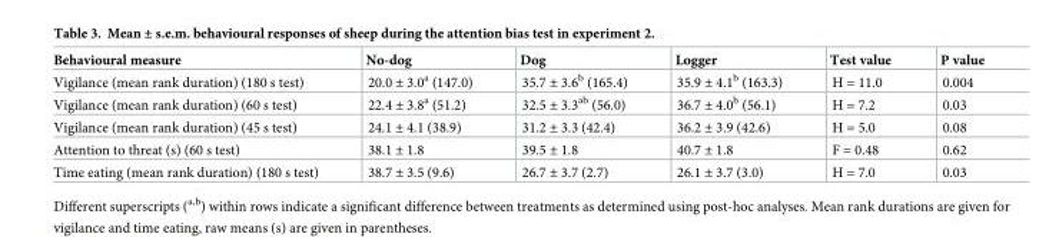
<table><thead><tr><td>Behavioural measure</td><td>No-dog</td><td>Dog</td><td>Logger</td><td>Test value</td><td>P value</td></tr></thead><tbody><tr><td>Vigilance (mean rank duration) (180 s test)</td><td>20.0 ± 3.0<sup>a</sup> (147.0)</td><td>35.7 ± 3.6<sup>b</sup> (165.4)</td><td>35.9 ± 4.1<sup>b</sup> (163.3)</td><td>H = 11.0</td><td>0.004</td></tr><tr><td>Vigilance (mean rank duration) (60 s test)</td><td>22.4 ± 3.8<sup>a</sup> (51.2)</td><td>32.5 ± 3.3<sup>ab</sup> (56.0)</td><td>36.7 ± 4.0<sup>b</sup> (56.1)</td><td>H = 7.2</td><td>0.03</td></tr><tr><td>Vigilance (mean rank duration) (45 s test)</td><td>24.1 ± 4.1 (38.9)</td><td>31.2 ± 3.3 (42.4)</td><td>36.2 ± 3.9 (42.6)</td><td>H = 5.0</td><td>0.08</td></tr><tr><td>Attention to threat (s) (60 s test)</td><td>38.1 ± 1.8</td><td>39.5 ± 1.8</td><td>40.7 ± 1.8</td><td>F = 0.48</td><td>0.62</td></tr><tr><td>Time eating (mean rank duration) (180 s test)</td><td>38.7 ± 3.5 (9.6)</td><td>26.7 ± 3.7 (2.7)</td><td>26.1 ± 3.7 (3.0)</td><td>H = 7.0</td><td>0.03</td></tr></tbody></table>